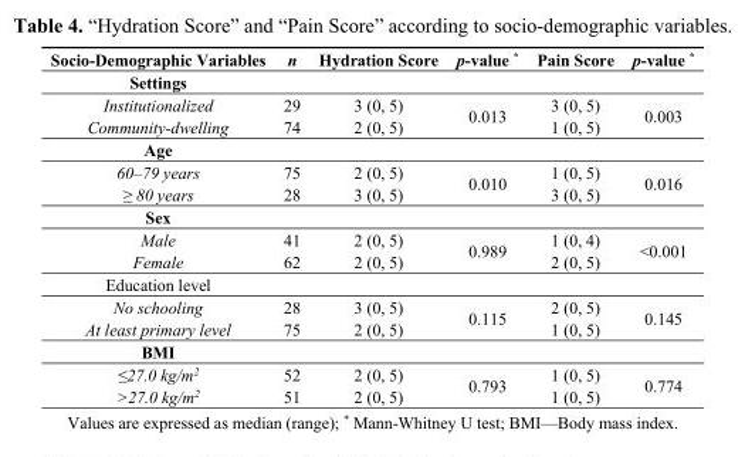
<table><thead><tr><td>Socio-Demographic Variables</td><td>n</td><td>Hydration Score</td><td>p-value *</td><td>Pain Score</td><td>p-value *</td></tr></thead><tbody><tr><td colspan="6">Settings</td></tr><tr><td>Institutionalized</td><td>29</td><td>3 (0, 5)</td><td rowspan="2">0.013</td><td>3 (0, 5)</td><td rowspan="2">0.003</td></tr><tr><td>Community-dwelling</td><td>74</td><td>2 (0, 5)</td><td>1 (0, 5)</td></tr><tr><td colspan="6">Age</td></tr><tr><td>60–79 years</td><td>75</td><td>2 (0, 5)</td><td rowspan="2">0.010</td><td>1 (0, 5)</td><td rowspan="2">0.016</td></tr><tr><td>≥ 80 years</td><td>28</td><td>3 (0, 5)</td><td>3 (0, 5)</td></tr><tr><td colspan="6">Sex</td></tr><tr><td>Male</td><td>41</td><td>2 (0, 5)</td><td rowspan="2">0.989</td><td>1 (0, 4)</td><td rowspan="2">&lt;0.001</td></tr><tr><td>Female</td><td>62</td><td>2 (0, 5)</td><td>2 (0, 5)</td></tr><tr><td colspan="6">Education level</td></tr><tr><td>No schooling</td><td>28</td><td>3 (0, 5)</td><td rowspan="2">0.115</td><td>2 (0, 5)</td><td rowspan="2">0.145</td></tr><tr><td>At least primary level</td><td>75</td><td>2 (0, 5)</td><td>1 (0, 5)</td></tr><tr><td colspan="6">BMI</td></tr><tr><td>≤27.0 kg/m<sup>2</sup></td><td>52</td><td>2 (0, 5)</td><td rowspan="2">0.793</td><td>1 (0, 5)</td><td rowspan="2">0.774</td></tr><tr><td>&gt;27.0 kg/m<sup>2</sup></td><td>51</td><td>2 (0, 5)</td><td>1 (0, 5)</td></tr></tbody></table>